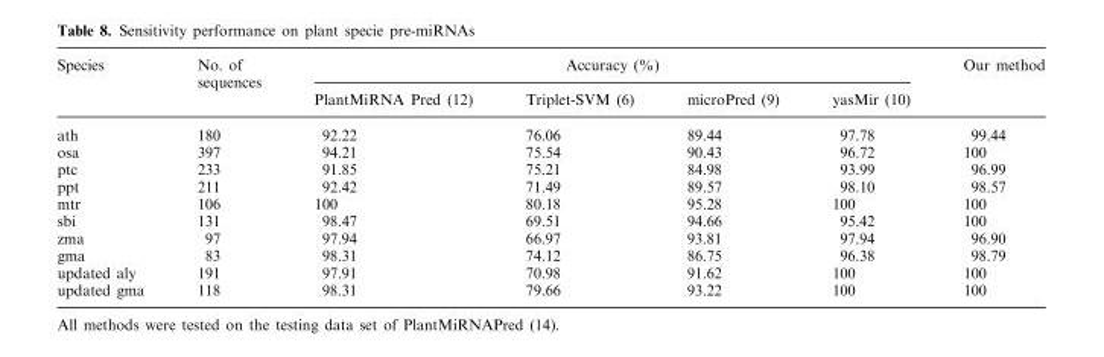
<table><thead><tr><td rowspan="2">Species</td><td rowspan="2">No. of sequences</td><td colspan="4">Accuracy (%)</td><td rowspan="2">Our method</td></tr><tr><td>PlantMiRNA Pred (12)</td><td>Triplet-SVM (6)</td><td>microPred (9)</td><td>yasMir (10)</td></tr></thead><tbody><tr><td>ath</td><td>180</td><td>92.22</td><td>76.06</td><td>89.44</td><td>97.78</td><td>99.44</td></tr><tr><td>osa</td><td>397</td><td>94.21</td><td>75.54</td><td>90.43</td><td>96.72</td><td>100</td></tr><tr><td>ptc</td><td>233</td><td>91.85</td><td>75.21</td><td>84.98</td><td>93.99</td><td>96.99</td></tr><tr><td>ppt</td><td>211</td><td>92.42</td><td>71.49</td><td>89.57</td><td>98.10</td><td>98.57</td></tr><tr><td>mtr</td><td>106</td><td>100</td><td>80.18</td><td>95.28</td><td>100</td><td>100</td></tr><tr><td>sbi</td><td>131</td><td>98.47</td><td>69.51</td><td>94.66</td><td>95.42</td><td>100</td></tr><tr><td>zma</td><td>97</td><td>97.94</td><td>66.97</td><td>93.81</td><td>97.94</td><td>96.90</td></tr><tr><td>gma</td><td>83</td><td>98.31</td><td>74.12</td><td>86.75</td><td>96.38</td><td>98.79</td></tr><tr><td>updated aly</td><td>191</td><td>97.91</td><td>70.98</td><td>91.62</td><td>100</td><td>100</td></tr><tr><td>updated gma</td><td>118</td><td>98.31</td><td>79.66</td><td>93.22</td><td>100</td><td>100</td></tr></tbody></table>